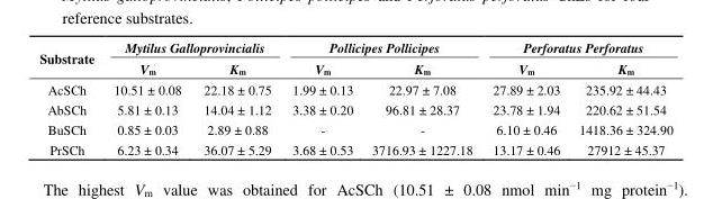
<table><thead><tr><td rowspan="2">Substrate</td><td colspan="2">Mytilus Galloprovincialis</td><td colspan="2">Pollicipes Pollicipes</td><td colspan="2">Perforatus Perforatus</td></tr><tr><td>V<sub>m</sub></td><td>K<sub>m</sub></td><td>V<sub>m</sub></td><td>K<sub>m</sub></td><td>V<sub>m</sub></td><td>K<sub>m</sub></td></tr></thead><tbody><tr><td>AcSCh</td><td>10.51 ± 0.08</td><td>22.18 ± 0.75</td><td>1.99 ± 0.13</td><td>22.97 ± 7.08</td><td>27.89 ± 2.03</td><td>235.92 ± 44.43</td></tr><tr><td>AbSCh</td><td>5.81 ± 0.13</td><td>14.04 ± 1.12</td><td>3.38 ± 0.20</td><td>96.81 ± 28.37</td><td>23.78 ± 1.94</td><td>220.62 ± 51.54</td></tr><tr><td>BuSCh</td><td>0.85 ± 0.03</td><td>2.89 ± 0.88</td><td>-</td><td>-</td><td>6.10 ± 0.46</td><td>1418.36 ± 324.90</td></tr><tr><td>PrSCh</td><td>6.23 ± 0.34</td><td>36.07 ± 5.29</td><td>3.68 ± 0.53</td><td>3716.93 ± 1227.18</td><td>13.17 ± 0.46</td><td>27912 ± 45.37</td></tr></tbody></table>